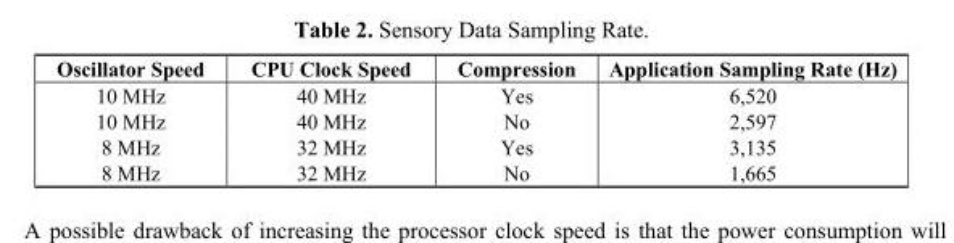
<table><thead><tr><td>Oscillator Speed</td><td>CPU Clock Speed</td><td>Compression</td><td>Application Sampling Rate (Hz)</td></tr></thead><tbody><tr><td>10 MHz</td><td>40 MHz</td><td>Yes</td><td>6,520</td></tr><tr><td>10 MHz</td><td>40 MHz</td><td>No</td><td>2,597</td></tr><tr><td>8 MHz</td><td>32 MHz</td><td>Yes</td><td>3,135</td></tr><tr><td>8 MHz</td><td>32 MHz</td><td>No</td><td>1,665</td></tr></tbody></table>